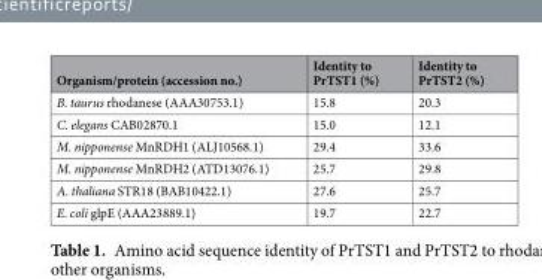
<table><thead><tr><td>Organism/protein (accession no.)</td><td>Identity to PrTST1 (%)</td><td>Identity to PrTST2 (%)</td></tr></thead><tbody><tr><td>B. taurus rhodanese (AAA30753.1)</td><td>15.8</td><td>20.3</td></tr><tr><td>C. elegans CAB02870.1</td><td>15.0</td><td>12.1</td></tr><tr><td>M. nipponense MnRDH1 (ALJ10568.1)</td><td>29.4</td><td>33.6</td></tr><tr><td>M. nipponense MnRDH2 (ATD13076.1)</td><td>25.7</td><td>29.8</td></tr><tr><td>A. thaliana STR18 (BAB10422.1)</td><td>27.6</td><td>25.7</td></tr><tr><td>E. coli glpE (AAA23889.1)</td><td>19.7</td><td>22.7</td></tr></tbody></table>